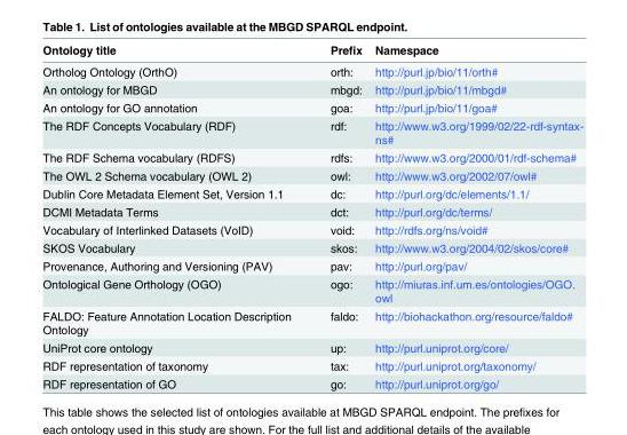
<table><thead><tr><td>Ontology title</td><td>Prefix</td><td>Namespace</td></tr></thead><tbody><tr><td>Ortholog Ontology (OrthO)</td><td>orth:</td><td>http://purl.jp/bio/11/orth#</td></tr><tr><td>An ontology for MBGD</td><td>mbgd:</td><td>http://purl.jp/bio/11/mbgd#</td></tr><tr><td>An ontology for GO annotation</td><td>goa:</td><td>http://purl.jp/bio/11/goa#</td></tr><tr><td>The RDF Concepts Vocabulary (RDF)</td><td>rdf:</td><td>http://www.w3.org/1999/02/22-rdf-syntax- ns#</td></tr><tr><td>The RDF Schema vocabulary (RDFS)</td><td>rdfs:</td><td>http://www.w3.org/2000/01/rdf-schema#</td></tr><tr><td>The OWL 2 Schema vocabulary (OWL 2)</td><td>owl:</td><td>http://www.w3.org/2002/07/owl#</td></tr><tr><td>Dublin Core Metadata Element Set, Version 1.1</td><td>dc:</td><td>http://purl.org/dc/elements/1.1/</td></tr><tr><td>DCMI Metadata Terms</td><td>dct:</td><td>http://purl.org/dc/terms/</td></tr><tr><td>Vocabulary of Interlinked Datasets (VoID)</td><td>void:</td><td>http://rdfs.org/ns/void#</td></tr><tr><td>SKOS Vocabulary</td><td>skos:</td><td>http://www.w3.org/2004/02/skos/core#</td></tr><tr><td>Provenance, Authoring and Versioning (PAV)</td><td>pav:</td><td>http://purl.org/pav/</td></tr><tr><td>Ontological Gene Orthology (OGO)</td><td>ogo:</td><td>http://miuras.inf.um.es/ontologies/OGO. owl</td></tr><tr><td>FALDO: Feature Annotation Location Description Ontology</td><td>faldo:</td><td>http://biohackathon.org/resource/faldo#</td></tr><tr><td>UniProt core ontology</td><td>up:</td><td>http://purl.uniprot.org/core/</td></tr><tr><td>RDF representation of taxonomy</td><td>tax:</td><td>http://purl.uniprot.org/taxonomy/</td></tr><tr><td>RDF representation of GO</td><td>go:</td><td>http://purl.uniprot.org/go/</td></tr></tbody></table>